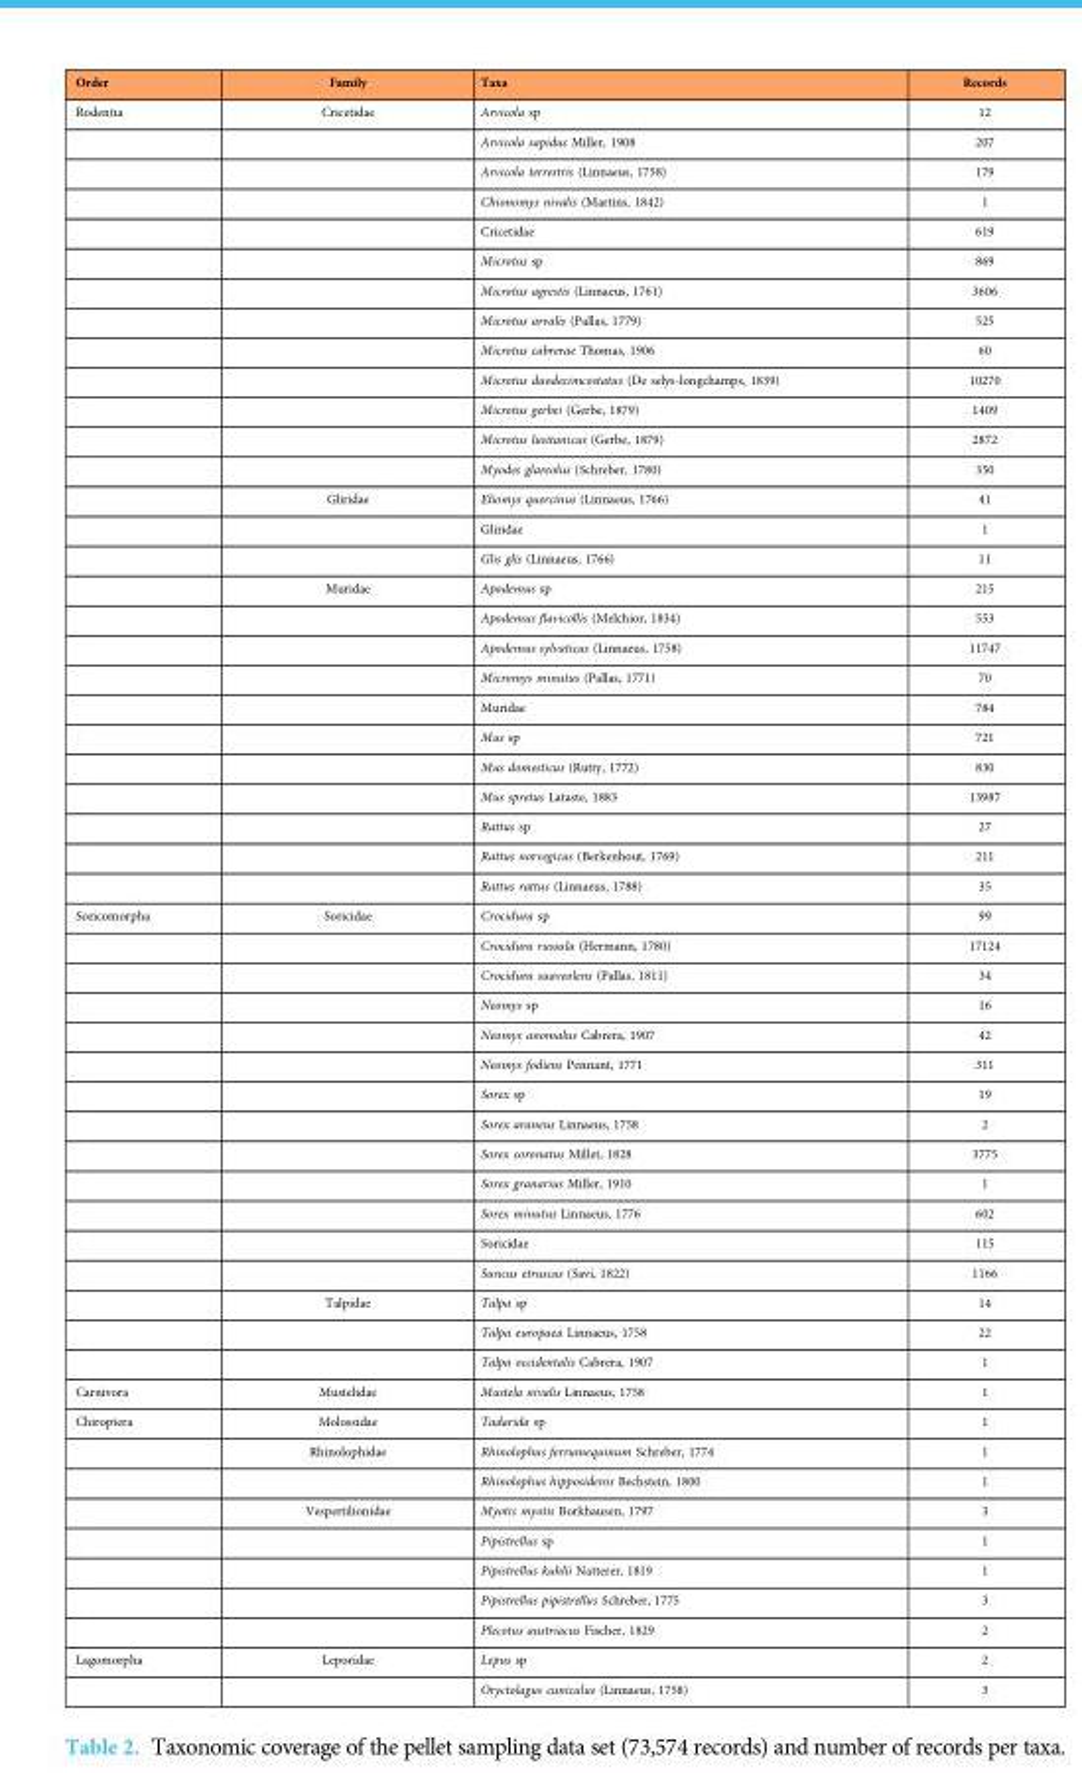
<table><thead><tr><td>Order</td><td>Family</td><td>Taxa</td><td>Records</td></tr></thead><tbody><tr><td rowspan="27">Rodentia</td><td>Cricetidae</td><td>Arvicola sp</td><td>12</td></tr><tr><td></td><td>Arvicola sapidus Miller, 1908</td><td>207</td></tr><tr><td></td><td>Arvicola terrestris (Linnaeus, 1758)</td><td>179</td></tr><tr><td></td><td>Chionomys nivalis (Martins, 1842)</td><td>1</td></tr><tr><td></td><td>Cricetidae</td><td>619</td></tr><tr><td></td><td>Microtus sp</td><td>869</td></tr><tr><td></td><td>Microtus agrestis (Linnaeus, 1761)</td><td>3606</td></tr><tr><td></td><td>Microtus arvalis (Pallas, 1779)</td><td>525</td></tr><tr><td></td><td>Microtus cabrerae Thomas, 1906</td><td>60</td></tr><tr><td></td><td>Microtus duodecimcostatus (De selys-longchamps, 1839)</td><td>10270</td></tr><tr><td></td><td>Microtus gerbei (Gerbe, 1879)</td><td>1409</td></tr><tr><td></td><td>Microtus lusitanicus (Gerbe, 1879)</td><td>2872</td></tr><tr><td></td><td>Myodes glareolus (Schreber, 1780)</td><td>350</td></tr><tr><td>Gliridae</td><td>Eliomys quercinus (Linnaeus, 1766)</td><td>41</td></tr><tr><td></td><td>Gliridae</td><td>1</td></tr><tr><td></td><td>Glis glis (Linnaeus, 1766)</td><td>11</td></tr><tr><td>Muridae</td><td>Apodemus sp</td><td>215</td></tr><tr><td></td><td>Apodemus flavicollis (Melchior, 1834)</td><td>553</td></tr><tr><td></td><td>Apodemus sylvaticus (Linnaeus, 1758)</td><td>11747</td></tr><tr><td></td><td>Micromys minutus (Pallas, 1771)</td><td>70</td></tr><tr><td></td><td>Muridae</td><td>784</td></tr><tr><td></td><td>Mus sp</td><td>721</td></tr><tr><td></td><td>Mus domesticus (Rutty, 1772)</td><td>830</td></tr><tr><td></td><td>Mus spretus Lataste, 1883</td><td>13987</td></tr><tr><td></td><td>Rattus sp</td><td>27</td></tr><tr><td></td><td>Rattus norvegicus (Berkenhout, 1769)</td><td>211</td></tr><tr><td></td><td>Rattus rattus (Linnaeus, 1788)</td><td>35</td></tr><tr><td rowspan="16">Soricomorpha</td><td>Soricidae</td><td>Crocidura sp</td><td>99</td></tr><tr><td></td><td>Crocidura russula (Hermann, 1780)</td><td>17124</td></tr><tr><td></td><td>Crocidura suaveolens (Pallas, 1811)</td><td>34</td></tr><tr><td></td><td>Neomys sp</td><td>16</td></tr><tr><td></td><td>Neomys anomalus Cabrera, 1907</td><td>42</td></tr><tr><td></td><td>Neomys fodiens Pennant, 1771</td><td>311</td></tr><tr><td></td><td>Sorex sp</td><td>19</td></tr><tr><td></td><td>Sorex araneus Linnaeus, 1758</td><td>2</td></tr><tr><td></td><td>Sorex coronatus Millet, 1828</td><td>3775</td></tr><tr><td></td><td>Sorex granarius Miller, 1910</td><td>1</td></tr><tr><td></td><td>Sorex minutus Linnaeus, 1776</td><td>602</td></tr><tr><td></td><td>Soricidae</td><td>115</td></tr><tr><td></td><td>Suncus etruscus (Savi, 1822)</td><td>1166</td></tr><tr><td>Talpidae</td><td>Talpa sp</td><td>14</td></tr><tr><td></td><td>Talpa europaea Linnaeus, 1758</td><td>22</td></tr><tr><td></td><td>Talpa occidentalis Cabrera, 1907</td><td>1</td></tr><tr><td>Carnivora</td><td>Mustelidae</td><td>Mustela nivalis Linnaeus, 1758</td><td>1</td></tr><tr><td rowspan="8">Chiroptera</td><td>Molossidae</td><td>Tadarida sp</td><td>1</td></tr><tr><td>Rhinolophidae</td><td>Rhinolophus ferrumequinum Schreber, 1774</td><td>1</td></tr><tr><td></td><td>Rhinolophus hipposideros Bechstein, 1800</td><td>1</td></tr><tr><td>Vespertilionidae</td><td>Myotis myotis Borkhausen, 1797</td><td>3</td></tr><tr><td></td><td>Pipistrellus sp</td><td>1</td></tr><tr><td></td><td>Pipistrellus kuhlii Natterer, 1819</td><td>1</td></tr><tr><td></td><td>Pipistrellus pipistrellus Schreber, 1775</td><td>3</td></tr><tr><td></td><td>Plecotus austriacus Fischer, 1829</td><td>2</td></tr><tr><td rowspan="2">Lagomorpha</td><td>Leporidae</td><td>Lepus sp</td><td>2</td></tr><tr><td></td><td>Oryctolagus cuniculus (Linnaeus, 1758)</td><td>3</td></tr></tbody></table>